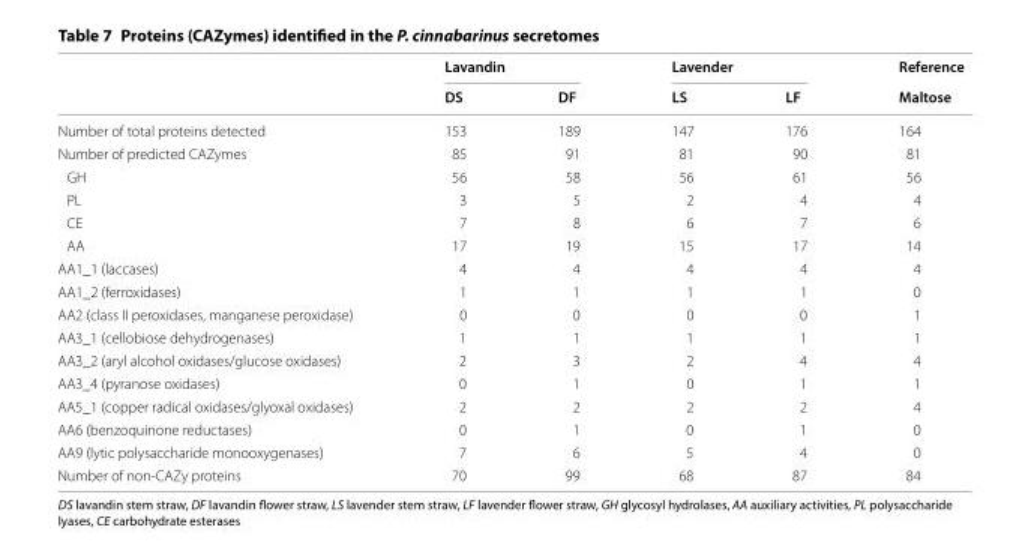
<table><thead><tr><td rowspan="2"></td><td colspan="2">Lavandin</td><td colspan="2">Lavender</td><td rowspan="2">Reference Maltose</td></tr><tr><td>DS</td><td>DF</td><td>LS</td><td>LF</td></tr></thead><tbody><tr><td>Number of total proteins detected</td><td>153</td><td>189</td><td>147</td><td>176</td><td>164</td></tr><tr><td>Number of predicted CAZymes</td><td>85</td><td>91</td><td>81</td><td>90</td><td>81</td></tr><tr><td>GH</td><td>56</td><td>58</td><td>56</td><td>61</td><td>56</td></tr><tr><td>PL</td><td>3</td><td>5</td><td>2</td><td>4</td><td>4</td></tr><tr><td>CE</td><td>7</td><td>8</td><td>6</td><td>7</td><td>6</td></tr><tr><td>AA</td><td>17</td><td>19</td><td>15</td><td>17</td><td>14</td></tr><tr><td>AA1_1 (laccases)</td><td>4</td><td>4</td><td>4</td><td>4</td><td>4</td></tr><tr><td>AA1_2 (ferroxidases)</td><td>1</td><td>1</td><td>1</td><td>1</td><td>0</td></tr><tr><td>AA2 (class II peroxidases, manganese peroxidase)</td><td>0</td><td>0</td><td>0</td><td>0</td><td>1</td></tr><tr><td>AA3_1 (cellobiose dehydrogenases)</td><td>1</td><td>1</td><td>1</td><td>1</td><td>1</td></tr><tr><td>AA3_2 (aryl alcohol oxidases/glucose oxidases)</td><td>2</td><td>3</td><td>2</td><td>4</td><td>4</td></tr><tr><td>AA3_4 (pyranose oxidases)</td><td>0</td><td>1</td><td>0</td><td>1</td><td>1</td></tr><tr><td>AA5_1 (copper radical oxidases/glyoxal oxidases)</td><td>2</td><td>2</td><td>2</td><td>2</td><td>4</td></tr><tr><td>AA6 (benzoquinone reductases)</td><td>0</td><td>1</td><td>0</td><td>1</td><td>0</td></tr><tr><td>AA9 (lytic polysaccharide monooxygenases)</td><td>7</td><td>6</td><td>5</td><td>4</td><td>0</td></tr><tr><td>Number of non‑CAZy proteins</td><td>70</td><td>99</td><td>68</td><td>87</td><td>84</td></tr></tbody></table>